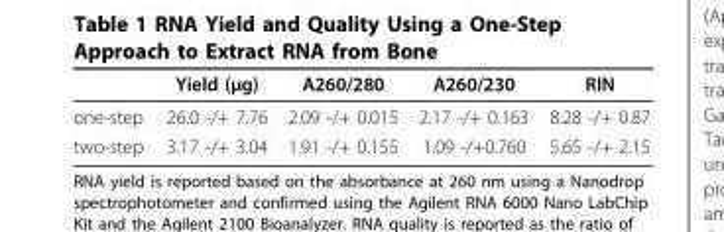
<table><thead><tr><td></td><td>Yield (μg)</td><td>A260/280</td><td>A260/230</td><td>RIN</td></tr></thead><tbody><tr><td>one-step</td><td>26.0 -/+ 7.76</td><td>2.09 -/+ 0.015</td><td>2.17 -/+ 0.163</td><td>8.28 -/+ 0.87</td></tr><tr><td>two-step</td><td>3.17 -/+ 3.04</td><td>1.91 -/+ 0.155</td><td>1.09 -/+0.760</td><td>5.65 -/+ 2.15</td></tr></tbody></table>